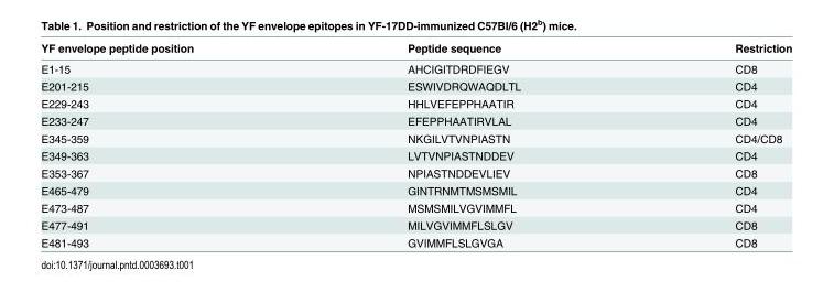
<table><thead><tr><td>YF envelope peptide position</td><td>Peptide sequence</td><td>Restriction</td></tr></thead><tbody><tr><td>E1-15</td><td>AHCIGITDRDFIEGV</td><td>CD8</td></tr><tr><td>E201-215</td><td>ESWIVDRQWAQDLTL</td><td>CD4</td></tr><tr><td>E229-243</td><td>HHLVEFEPPHAATIR</td><td>CD4</td></tr><tr><td>E233-247</td><td>EFEPPHAATIRVLAL</td><td>CD4</td></tr><tr><td>E345-359</td><td>NKGILVTVNPIASTN</td><td>CD4/CD8</td></tr><tr><td>E349-363</td><td>LVTVNPIASTNDDEV</td><td>CD4</td></tr><tr><td>E353-367</td><td>NPIASTNDDEVLIEV</td><td>CD8</td></tr><tr><td>E465-479</td><td>GINTRNMTMSMSMIL</td><td>CD4</td></tr><tr><td>E473-487</td><td>MSMSMILVGVIMMFL</td><td>CD4</td></tr><tr><td>E477-491</td><td>MILVGVIMMFLSLGV</td><td>CD8</td></tr><tr><td>E481-493</td><td>GVIMMFLSLGVGA</td><td>CD8</td></tr></tbody></table>